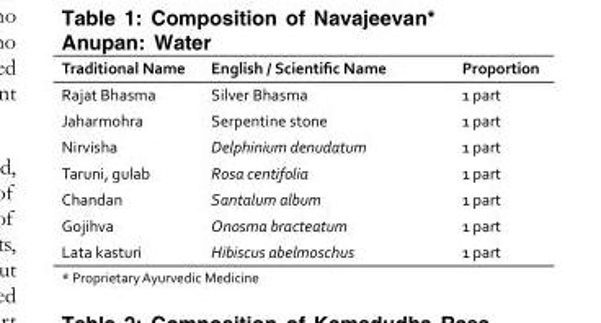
<table><thead><tr><td>Traditional Name</td><td>English / Scientific Name</td><td>Proportion</td></tr></thead><tbody><tr><td>Rajat Bhasma</td><td>Silver Bhasma</td><td>1 part</td></tr><tr><td>Jaharmohra</td><td>Serpentine stone</td><td>1 part</td></tr><tr><td>Nirvisha</td><td>Delphinium denudatum</td><td>1 part</td></tr><tr><td>Taruni, gulab</td><td>Rosa centifolia</td><td>1 part</td></tr><tr><td>Chandan</td><td>Santalum album</td><td>1 part</td></tr><tr><td>Gojihva</td><td>Onosma bracteatum</td><td>1 part</td></tr><tr><td>Lata kasturi</td><td>Hibiscus abelmoschus</td><td>1 part</td></tr></tbody></table>